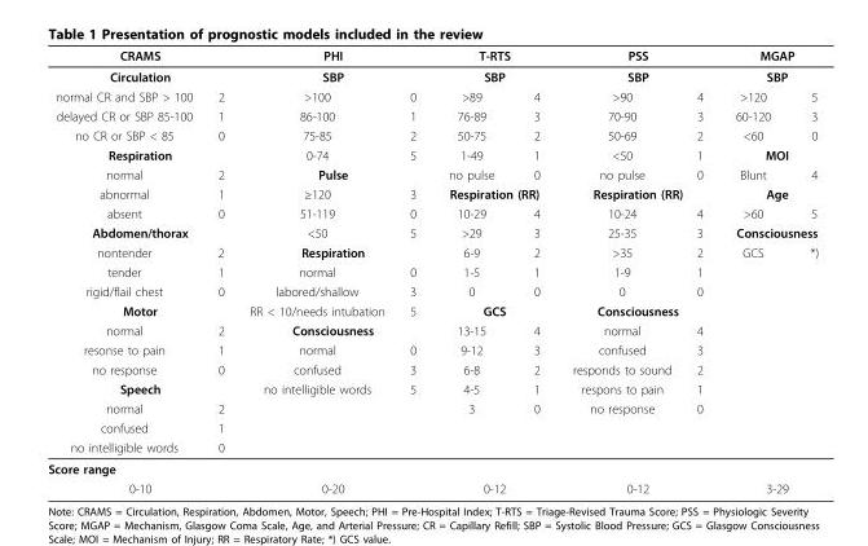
<table><thead><tr><td rowspan="2" colspan="2">CRAMS Circulation</td><td rowspan="2" colspan="2">PHI SBP</td><td rowspan="2" colspan="2">T-RTS SBP</td><td rowspan="2" colspan="2">PSS SBP</td><td rowspan="2" colspan="2">MGAP SBP</td></tr><tr></tr><tr><td>normal CR and SBP &gt; 100</td><td>2</td><td>&gt;100</td><td>0</td><td>&gt;89</td><td>4</td><td>&gt;90</td><td>4</td><td>&gt;120</td><td>5</td></tr></thead><tbody><tr><td>delayed CR or SBP 85-100</td><td>1</td><td>86-100</td><td>1</td><td>76-89</td><td>3</td><td>70-90</td><td>3</td><td>60-120</td><td>3</td></tr><tr><td>no CR or SBP &lt; 85</td><td>0</td><td>75-85</td><td>2</td><td>50-75</td><td>2</td><td>50-69</td><td>2</td><td>&lt;60</td><td>0</td></tr><tr><td colspan="2">Respiration</td><td>0-74</td><td>5</td><td>1-49</td><td>1</td><td>&lt;50</td><td>1</td><td colspan="2">MOI</td></tr><tr><td>normal</td><td>2</td><td colspan="2">Pulse</td><td>no pulse</td><td>0</td><td>no pulse</td><td>0</td><td>Blunt</td><td>4</td></tr><tr><td>abnormal</td><td>1</td><td>≥120</td><td>3</td><td colspan="2">Respiration (RR)</td><td colspan="2">Respiration (RR)</td><td colspan="2">Age</td></tr><tr><td>absent</td><td>0</td><td>51-119</td><td>0</td><td>10-29</td><td>4</td><td>10-24</td><td>4</td><td>&gt;60</td><td>5</td></tr><tr><td colspan="2">Abdomen/thorax</td><td>&lt;50</td><td>5</td><td>&gt;29</td><td>3</td><td>25-35</td><td>3</td><td colspan="2">Consciousness</td></tr><tr><td>nontender</td><td>2</td><td colspan="2">Respiration</td><td>6-9</td><td>2</td><td>&gt;35</td><td>2</td><td>GCS</td><td>*)</td></tr><tr><td>tender</td><td>1</td><td>normal</td><td>0</td><td>1-5</td><td>1</td><td>1-9</td><td>1</td><td></td><td></td></tr><tr><td>rigid/flail chest</td><td>0</td><td>labored/shallow</td><td>3</td><td>0</td><td>0</td><td>0</td><td>0</td><td></td><td></td></tr><tr><td colspan="2">Motor</td><td>RR &lt; 10/needs intubation</td><td>5</td><td colspan="2">GCS</td><td colspan="2">Consciousness</td><td></td><td></td></tr><tr><td>normal</td><td>2</td><td colspan="2">Consciousness</td><td>13-15</td><td>4</td><td>normal</td><td>4</td><td></td><td></td></tr><tr><td>resonse to pain</td><td>1</td><td>normal</td><td>0</td><td>9-12</td><td>3</td><td>confused</td><td>3</td><td></td><td></td></tr><tr><td>no response</td><td>0</td><td>confused</td><td>3</td><td>6-8</td><td>2</td><td>responds to sound</td><td>2</td><td></td><td></td></tr><tr><td colspan="2">Speech</td><td>no intelligible words</td><td>5</td><td>4-5</td><td>1</td><td>respons to pain</td><td>1</td><td></td><td></td></tr><tr><td>normal</td><td>2</td><td></td><td></td><td>3</td><td>0</td><td>no response</td><td>0</td><td></td><td></td></tr><tr><td>confused</td><td>1</td><td></td><td></td><td></td><td></td><td></td><td></td><td></td><td></td></tr><tr><td>no intelligible words</td><td>0</td><td></td><td></td><td></td><td></td><td></td><td></td><td></td><td></td></tr><tr><td colspan="10">Score range</td></tr><tr><td colspan="2">0-10</td><td colspan="2">0-20</td><td colspan="2">0-12</td><td colspan="2">0-12</td><td colspan="2">3-29</td></tr></tbody></table>